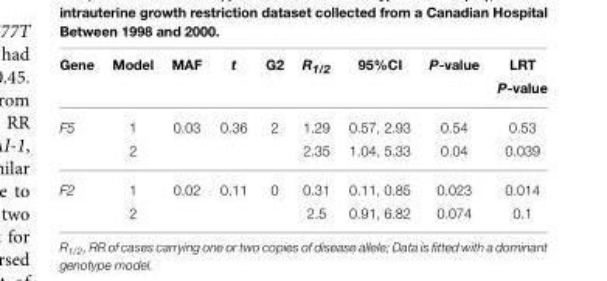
<table><thead><tr><td>Gene</td><td>Model</td><td>MAF</td><td>t</td><td>G2</td><td>R1/2</td><td>95%CI</td><td>P-value</td><td>LRT P-value</td></tr></thead><tbody><tr><td rowspan="2">F5</td><td>1</td><td>0.03</td><td>0.36</td><td>2</td><td>1.29</td><td>0.57, 2.93</td><td>0.54</td><td>0.53</td></tr><tr><td>2</td><td></td><td></td><td></td><td>2.35</td><td>1.04, 5.33</td><td>0.04</td><td>0.039</td></tr><tr><td rowspan="2">F2</td><td>1</td><td>0.02</td><td>0.11</td><td>0</td><td>0.31</td><td>0.11, 0.85</td><td>0.023</td><td>0.014</td></tr><tr><td>2</td><td></td><td></td><td></td><td>2.5</td><td>0.91, 6.82</td><td>0.074</td><td>0.1</td></tr></tbody></table>